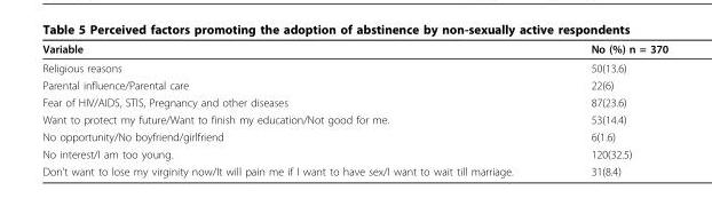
<table><thead><tr><td>Variable</td><td>No (%) n = 370</td></tr></thead><tbody><tr><td>Religious reasons</td><td>50(13.6)</td></tr><tr><td>Parental influence/Parental care</td><td>22(6)</td></tr><tr><td>Fear of HIV/AIDS, STIS, Pregnancy and other diseases</td><td>87(23.6)</td></tr><tr><td>Want to protect my future/Want to finish my education/Not good for me.</td><td>53(14.4)</td></tr><tr><td>No opportunity/No boyfriend/girlfriend</td><td>6(1.6)</td></tr><tr><td>No interest/I am too young.</td><td>120(32.5)</td></tr><tr><td>Don’t want to lose my virginity now/It will pain me if I want to have sex/I want to wait till marriage.</td><td>31(8.4)</td></tr></tbody></table>